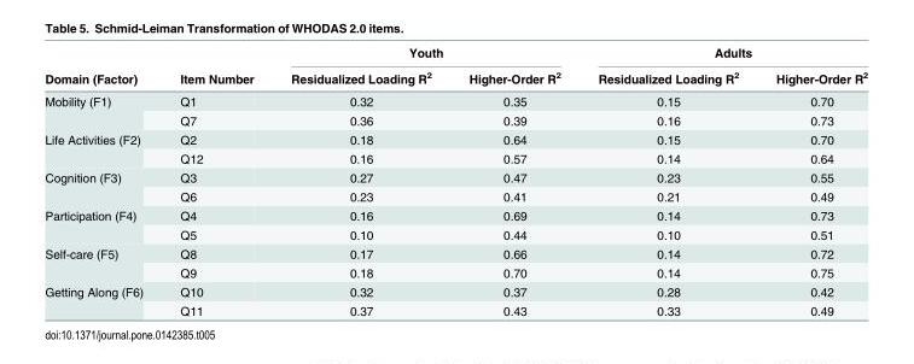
<table><thead><tr><td rowspan="2">Domain (Factor)</td><td rowspan="2">Item Number</td><td colspan="2">Youth</td><td colspan="2">Adults</td></tr><tr><td>Residualized Loading R<sup>2</sup></td><td>Higher-Order R<sup>2</sup></td><td>Residualized Loading R<sup>2</sup></td><td>Higher-Order R<sup>2</sup></td></tr></thead><tbody><tr><td rowspan="2">Mobility (F1)</td><td>Q1</td><td>0.32</td><td>0.35</td><td>0.15</td><td>0.70</td></tr><tr><td>Q7</td><td>0.36</td><td>0.39</td><td>0.16</td><td>0.73</td></tr><tr><td rowspan="2">Life Activities (F2)</td><td>Q2</td><td>0.18</td><td>0.64</td><td>0.15</td><td>0.70</td></tr><tr><td>Q12</td><td>0.16</td><td>0.57</td><td>0.14</td><td>0.64</td></tr><tr><td rowspan="2">Cognition (F3)</td><td>Q3</td><td>0.27</td><td>0.47</td><td>0.23</td><td>0.55</td></tr><tr><td>Q6</td><td>0.23</td><td>0.41</td><td>0.21</td><td>0.49</td></tr><tr><td rowspan="2">Participation (F4)</td><td>Q4</td><td>0.16</td><td>0.69</td><td>0.14</td><td>0.73</td></tr><tr><td>Q5</td><td>0.10</td><td>0.44</td><td>0.10</td><td>0.51</td></tr><tr><td rowspan="2">Self-care (F5)</td><td>Q8</td><td>0.17</td><td>0.66</td><td>0.14</td><td>0.72</td></tr><tr><td>Q9</td><td>0.18</td><td>0.70</td><td>0.14</td><td>0.75</td></tr><tr><td rowspan="2">Getting Along (F6)</td><td>Q10</td><td>0.32</td><td>0.37</td><td>0.28</td><td>0.42</td></tr><tr><td>Q11</td><td>0.37</td><td>0.43</td><td>0.33</td><td>0.49</td></tr></tbody></table>